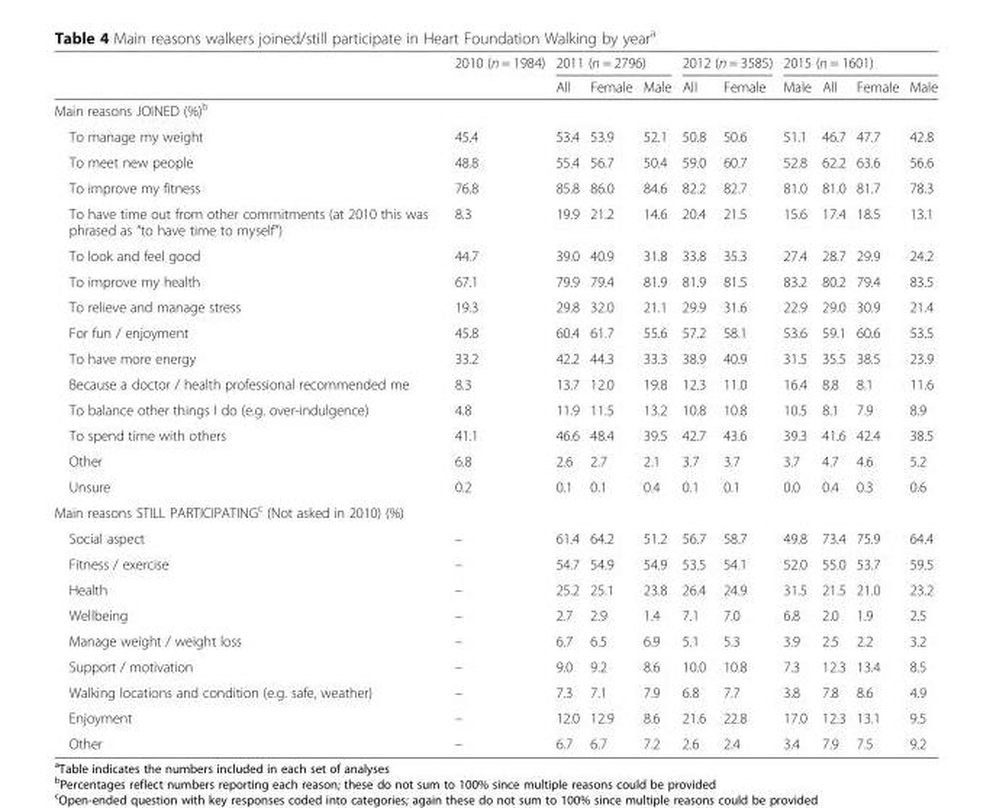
<table><thead><tr><td rowspan="2"></td><td rowspan="2">2010 (n = 1984)</td><td colspan="3">2011 (n = 2796)</td><td colspan="2">2012 (n = 3585)</td><td colspan="4">2015 (n = 1601)</td></tr><tr><td>All</td><td>Female</td><td>Male</td><td>All</td><td>Female</td><td>Male</td><td>All</td><td>Female</td><td>Male</td></tr></thead><tbody><tr><td colspan="11">Main reasons JOINED (%)<sup>b</sup></td></tr><tr><td>To manage my weight</td><td>45.4</td><td>53.4</td><td>53.9</td><td>52.1</td><td>50.8</td><td>50.6</td><td>51.1</td><td>46.7</td><td>47.7</td><td>42.8</td></tr><tr><td>To meet new people</td><td>48.8</td><td>55.4</td><td>56.7</td><td>50.4</td><td>59.0</td><td>60.7</td><td>52.8</td><td>62.2</td><td>63.6</td><td>56.6</td></tr><tr><td>To improve my fitness</td><td>76.8</td><td>85.8</td><td>86.0</td><td>84.6</td><td>82.2</td><td>82.7</td><td>81.0</td><td>81.0</td><td>81.7</td><td>78.3</td></tr><tr><td>To have time out from other commitments (at 2010 this was phrased as “to have time to myself”)</td><td>8.3</td><td>19.9</td><td>21.2</td><td>14.6</td><td>20.4</td><td>21.5</td><td>15.6</td><td>17.4</td><td>18.5</td><td>13.1</td></tr><tr><td>To look and feel good</td><td>44.7</td><td>39.0</td><td>40.9</td><td>31.8</td><td>33.8</td><td>35.3</td><td>27.4</td><td>28.7</td><td>29.9</td><td>24.2</td></tr><tr><td>To improve my health</td><td>67.1</td><td>79.9</td><td>79.4</td><td>81.9</td><td>81.9</td><td>81.5</td><td>83.2</td><td>80.2</td><td>79.4</td><td>83.5</td></tr><tr><td>To relieve and manage stress</td><td>19.3</td><td>29.8</td><td>32.0</td><td>21.1</td><td>29.9</td><td>31.6</td><td>22.9</td><td>29.0</td><td>30.9</td><td>21.4</td></tr><tr><td>For fun / enjoyment</td><td>45.8</td><td>60.4</td><td>61.7</td><td>55.6</td><td>57.2</td><td>58.1</td><td>53.6</td><td>59.1</td><td>60.6</td><td>53.5</td></tr><tr><td>To have more energy</td><td>33.2</td><td>42.2</td><td>44.3</td><td>33.3</td><td>38.9</td><td>40.9</td><td>31.5</td><td>35.5</td><td>38.5</td><td>23.9</td></tr><tr><td>Because a doctor / health professional recommended me</td><td>8.3</td><td>13.7</td><td>12.0</td><td>19.8</td><td>12.3</td><td>11.0</td><td>16.4</td><td>8.8</td><td>8.1</td><td>11.6</td></tr><tr><td>To balance other things I do (e.g. over-indulgence)</td><td>4.8</td><td>11.9</td><td>11.5</td><td>13.2</td><td>10.8</td><td>10.8</td><td>10.5</td><td>8.1</td><td>7.9</td><td>8.9</td></tr><tr><td>To spend time with others</td><td>41.1</td><td>46.6</td><td>48.4</td><td>39.5</td><td>42.7</td><td>43.6</td><td>39.3</td><td>41.6</td><td>42.4</td><td>38.5</td></tr><tr><td>Other</td><td>6.8</td><td>2.6</td><td>2.7</td><td>2.1</td><td>3.7</td><td>3.7</td><td>3.7</td><td>4.7</td><td>4.6</td><td>5.2</td></tr><tr><td>Unsure</td><td>0.2</td><td>0.1</td><td>0.1</td><td>0.4</td><td>0.1</td><td>0.1</td><td>0.0</td><td>0.4</td><td>0.3</td><td>0.6</td></tr><tr><td colspan="11">Main reasons STILL PARTICIPATING<sup>c</sup> (Not asked in 2010) (%)</td></tr><tr><td>Social aspect</td><td>–</td><td>61.4</td><td>64.2</td><td>51.2</td><td>56.7</td><td>58.7</td><td>49.8</td><td>73.4</td><td>75.9</td><td>64.4</td></tr><tr><td>Fitness / exercise</td><td>–</td><td>54.7</td><td>54.9</td><td>54.9</td><td>53.5</td><td>54.1</td><td>52.0</td><td>55.0</td><td>53.7</td><td>59.5</td></tr><tr><td>Health</td><td>–</td><td>25.2</td><td>25.1</td><td>23.8</td><td>26.4</td><td>24.9</td><td>31.5</td><td>21.5</td><td>21.0</td><td>23.2</td></tr><tr><td>Wellbeing</td><td>–</td><td>2.7</td><td>2.9</td><td>1.4</td><td>7.1</td><td>7.0</td><td>6.8</td><td>2.0</td><td>1.9</td><td>2.5</td></tr><tr><td>Manage weight / weight loss</td><td>–</td><td>6.7</td><td>6.5</td><td>6.9</td><td>5.1</td><td>5.3</td><td>3.9</td><td>2.5</td><td>2.2</td><td>3.2</td></tr><tr><td>Support / motivation</td><td>–</td><td>9.0</td><td>9.2</td><td>8.6</td><td>10.0</td><td>10.8</td><td>7.3</td><td>12.3</td><td>13.4</td><td>8.5</td></tr><tr><td>Walking locations and condition (e.g. safe, weather)</td><td>–</td><td>7.3</td><td>7.1</td><td>7.9</td><td>6.8</td><td>7.7</td><td>3.8</td><td>7.8</td><td>8.6</td><td>4.9</td></tr><tr><td>Enjoyment</td><td>–</td><td>12.0</td><td>12.9</td><td>8.6</td><td>21.6</td><td>22.8</td><td>17.0</td><td>12.3</td><td>13.1</td><td>9.5</td></tr><tr><td>Other</td><td>–</td><td>6.7</td><td>6.7</td><td>7.2</td><td>2.6</td><td>2.4</td><td>3.4</td><td>7.9</td><td>7.5</td><td>9.2</td></tr></tbody></table>